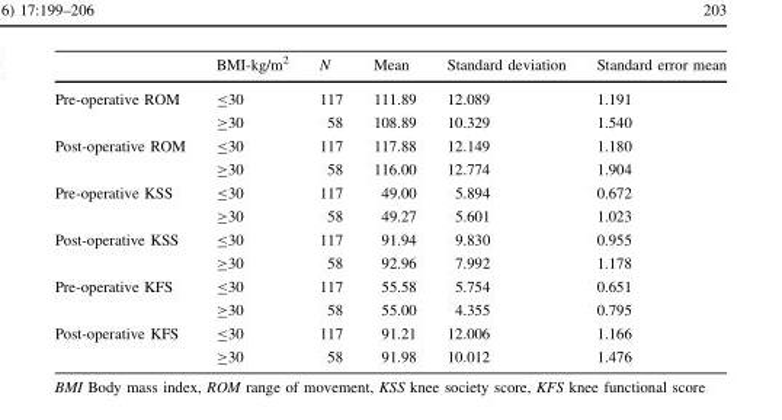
<table><thead><tr><td></td><td>BMI-kg/m<sup>2</sup></td><td>N</td><td>Mean</td><td>Standard deviation</td><td>Standard error mean</td></tr></thead><tbody><tr><td rowspan="2">Pre-operative ROM</td><td>≤30</td><td>117</td><td>111.89</td><td>12.089</td><td>1.191</td></tr><tr><td>≥30</td><td>58</td><td>108.89</td><td>10.329</td><td>1.540</td></tr><tr><td rowspan="2">Post-operative ROM</td><td>≤30</td><td>117</td><td>117.88</td><td>12.149</td><td>1.180</td></tr><tr><td>≥30</td><td>58</td><td>116.00</td><td>12.774</td><td>1.904</td></tr><tr><td rowspan="2">Pre-operative KSS</td><td>≤30</td><td>117</td><td>49.00</td><td>5.894</td><td>0.672</td></tr><tr><td>≥30</td><td>58</td><td>49.27</td><td>5.601</td><td>1.023</td></tr><tr><td rowspan="2">Post-operative KSS</td><td>≤30</td><td>117</td><td>91.94</td><td>9.830</td><td>0.955</td></tr><tr><td>≥30</td><td>58</td><td>92.96</td><td>7.992</td><td>1.178</td></tr><tr><td rowspan="2">Pre-operative KFS</td><td>≤30</td><td>117</td><td>55.58</td><td>5.754</td><td>0.651</td></tr><tr><td>≥30</td><td>58</td><td>55.00</td><td>4.355</td><td>0.795</td></tr><tr><td rowspan="2">Post-operative KFS</td><td>≤30</td><td>117</td><td>91.21</td><td>12.006</td><td>1.166</td></tr><tr><td>≥30</td><td>58</td><td>91.98</td><td>10.012</td><td>1.476</td></tr></tbody></table>